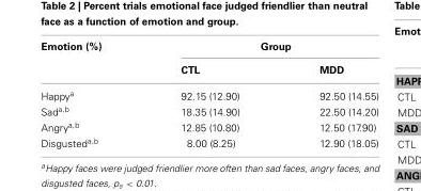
<table><thead><tr><td rowspan="2">Emotion (%)</td><td colspan="2">Group</td></tr><tr><td>CTL</td><td>MDD</td></tr></thead><tbody><tr><td>Happy<sup>a</sup></td><td>92.15 (12.90)</td><td>92.50 (14.55)</td></tr><tr><td>Sad<sup>a,b</sup></td><td>18.35 (14.90)</td><td>22.50 (14.20)</td></tr><tr><td>Angry<sup>a,b</sup></td><td>12.85 (10.80)</td><td>12.50 (17.90)</td></tr><tr><td>Disgusted<sup>a,b</sup></td><td>8.00 (8.25)</td><td>12.90 (18.05)</td></tr></tbody></table>